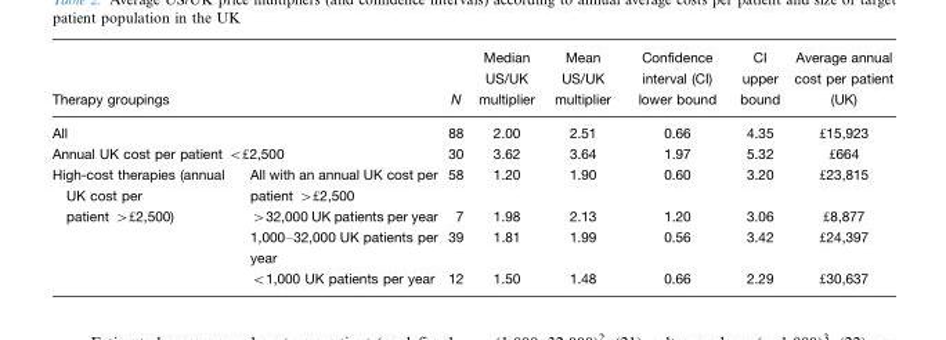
<table><thead><tr><td colspan="2">Therapy groupings</td><td rowspan="2">N 88</td><td rowspan="2">Median US/UK multiplier 2.00</td><td rowspan="2">Mean US/UK multiplier 2.51</td><td rowspan="2">Confidence interval (CI) lower bound 0.66</td><td rowspan="2">CI upper bound 4.35</td><td rowspan="2">Average annual cost per patient (UK) £15,923</td></tr><tr><td>All</td><td></td></tr></thead><tbody><tr><td colspan="2">Annual UK cost per patient &lt;£2,500</td><td>30</td><td>3.62</td><td>3.64</td><td>1.97</td><td>5.32</td><td>£664</td></tr><tr><td>High-cost therapies (annual UK cost per</td><td>All with an annual UK cost per patient &gt;£2,500</td><td>58</td><td>1.20</td><td>1.90</td><td>0.60</td><td>3.20</td><td>£23,815</td></tr><tr><td rowspan="3">patient &gt;£2,500)</td><td>&gt;32,000 UK patients per year</td><td>7</td><td>1.98</td><td>2.13</td><td>1.20</td><td>3.06</td><td>£8,877</td></tr><tr><td>1,000–32,000 UK patients per year</td><td>39</td><td>1.81</td><td>1.99</td><td>0.56</td><td>3.42</td><td>£24,397</td></tr><tr><td>&lt;1,000 UK patients per year</td><td>12</td><td>1.50</td><td>1.48</td><td>0.66</td><td>2.29</td><td>£30,637</td></tr></tbody></table>